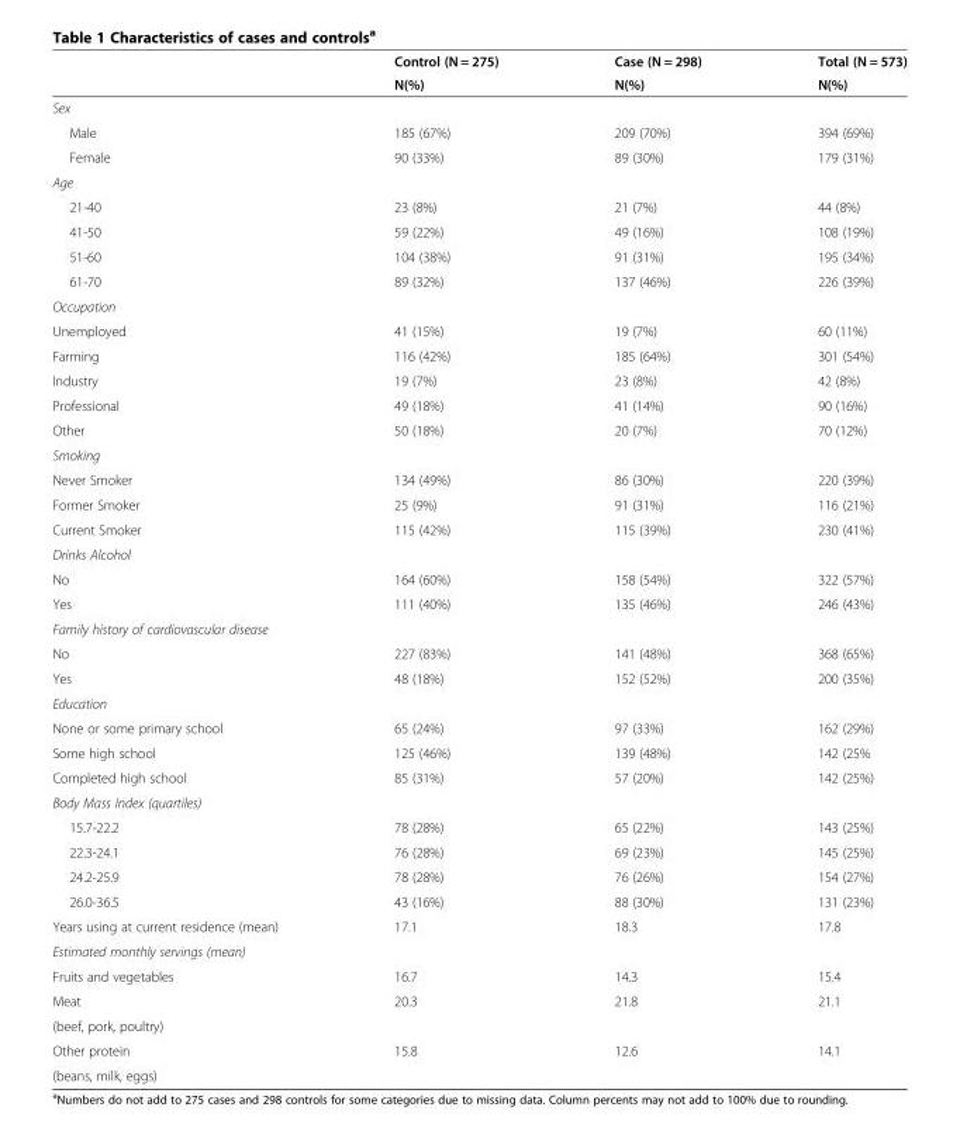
<table><thead><tr><td rowspan="2"></td><td rowspan="2">Control (N = 275) N(%)</td><td rowspan="2">Case (N = 298) N(%)</td><td rowspan="2">Total (N = 573) N(%)</td></tr><tr></tr></thead><tbody><tr><td colspan="4">Sex</td></tr><tr><td>Male</td><td>185 (67%)</td><td>209 (70%)</td><td>394 (69%)</td></tr><tr><td>Female</td><td>90 (33%)</td><td>89 (30%)</td><td>179 (31%)</td></tr><tr><td colspan="4">Age</td></tr><tr><td>21-40</td><td>23 (8%)</td><td>21 (7%)</td><td>44 (8%)</td></tr><tr><td>41-50</td><td>59 (22%)</td><td>49 (16%)</td><td>108 (19%)</td></tr><tr><td>51-60</td><td>104 (38%)</td><td>91 (31%)</td><td>195 (34%)</td></tr><tr><td>61-70</td><td>89 (32%)</td><td>137 (46%)</td><td>226 (39%)</td></tr><tr><td colspan="4">Occupation</td></tr><tr><td>Unemployed</td><td>41 (15%)</td><td>19 (7%)</td><td>60 (11%)</td></tr><tr><td>Farming</td><td>116 (42%)</td><td>185 (64%)</td><td>301 (54%)</td></tr><tr><td>Industry</td><td>19 (7%)</td><td>23 (8%)</td><td>42 (8%)</td></tr><tr><td>Professional</td><td>49 (18%)</td><td>41 (14%)</td><td>90 (16%)</td></tr><tr><td>Other</td><td>50 (18%)</td><td>20 (7%)</td><td>70 (12%)</td></tr><tr><td colspan="4">Smoking</td></tr><tr><td>Never Smoker</td><td>134 (49%)</td><td>86 (30%)</td><td>220 (39%)</td></tr><tr><td>Former Smoker</td><td>25 (9%)</td><td>91 (31%)</td><td>116 (21%)</td></tr><tr><td>Current Smoker</td><td>115 (42%)</td><td>115 (39%)</td><td>230 (41%)</td></tr><tr><td colspan="4">Drinks Alcohol</td></tr><tr><td>No</td><td>164 (60%)</td><td>158 (54%)</td><td>322 (57%)</td></tr><tr><td>Yes</td><td>111 (40%)</td><td>135 (46%)</td><td>246 (43%)</td></tr><tr><td colspan="4">Family history of cardiovascular disease</td></tr><tr><td>No</td><td>227 (83%)</td><td>141 (48%)</td><td>368 (65%)</td></tr><tr><td>Yes</td><td>48 (18%)</td><td>152 (52%)</td><td>200 (35%)</td></tr><tr><td colspan="4">Education</td></tr><tr><td>None or some primary school</td><td>65 (24%)</td><td>97 (33%)</td><td>162 (29%)</td></tr><tr><td>Some high school</td><td>125 (46%)</td><td>139 (48%)</td><td>142 (25%</td></tr><tr><td>Completed high school</td><td>85 (31%)</td><td>57 (20%)</td><td>142 (25%)</td></tr><tr><td colspan="4">Body Mass Index (quartiles)</td></tr><tr><td>15.7-22.2</td><td>78 (28%)</td><td>65 (22%)</td><td>143 (25%)</td></tr><tr><td>22.3-24.1</td><td>76 (28%)</td><td>69 (23%)</td><td>145 (25%)</td></tr><tr><td>24.2-25.9</td><td>78 (28%)</td><td>76 (26%)</td><td>154 (27%)</td></tr><tr><td>26.0-36.5</td><td>43 (16%)</td><td>88 (30%)</td><td>131 (23%)</td></tr><tr><td>Years using at current residence (mean)</td><td>17.1</td><td>18.3</td><td>17.8</td></tr><tr><td colspan="4">Estimated monthly servings (mean)</td></tr><tr><td>Fruits and vegetables</td><td>16.7</td><td>14.3</td><td>15.4</td></tr><tr><td>Meat</td><td rowspan="2">20.3</td><td rowspan="2">21.8</td><td rowspan="2">21.1</td></tr><tr><td>(beef, pork, poultry)</td></tr><tr><td>Other protein</td><td rowspan="2">15.8</td><td rowspan="2">12.6</td><td rowspan="2">14.1</td></tr><tr><td>(beans, milk, eggs)</td></tr></tbody></table>